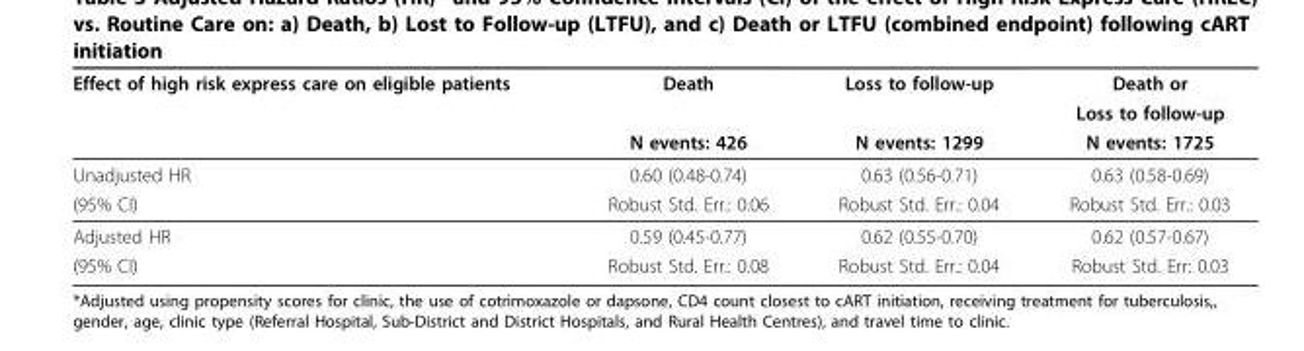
<table><thead><tr><td rowspan="3">Effect of high risk express care on eligible patients</td><td rowspan="3">Death N events: 426</td><td rowspan="3">Loss to follow-up N events: 1299</td><td rowspan="3">Death or Loss to follow-up N events: 1725</td></tr><tr></tr><tr></tr></thead><tbody><tr><td>Unadjusted HR</td><td>0.60 (0.48-0.74)</td><td>0.63 (0.56-0.71)</td><td>0.63 (0.58-0.69)</td></tr><tr><td>(95% CI)</td><td>Robust Std. Err.: 0.06</td><td>Robust Std. Err.: 0.04</td><td>Robust Std. Err.: 0.03</td></tr><tr><td>Adjusted HR</td><td>0.59 (0.45-0.77)</td><td>0.62 (0.55-0.70)</td><td>0.62 (0.57-0.67)</td></tr><tr><td>(95% CI)</td><td>Robust Std. Err.: 0.08</td><td>Robust Std. Err.: 0.04</td><td>Robust Std. Err: 0.03</td></tr></tbody></table>